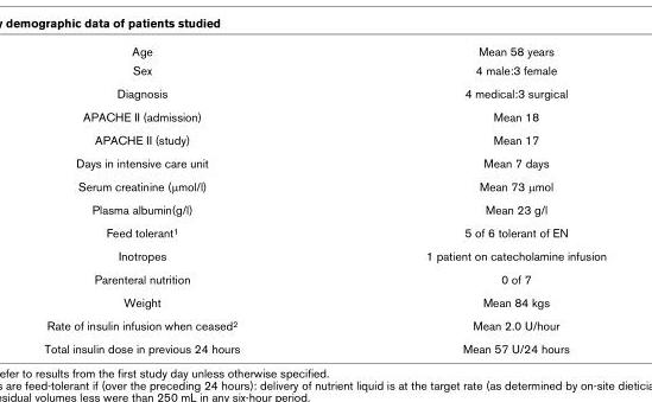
<table><tbody><tr><td>Age</td><td>Mean 58 years</td></tr><tr><td>Sex</td><td>4 male:3 female</td></tr><tr><td>Diagnosis</td><td>4 medical:3 surgical</td></tr><tr><td>APACHE II (admission)</td><td>Mean 18</td></tr><tr><td>APACHE II (study)</td><td>Mean 17</td></tr><tr><td>Days in intensive care unit</td><td>Mean 7 days</td></tr><tr><td>Serum creatinine (μmol/l)</td><td>Mean 73 μmol</td></tr><tr><td>Plasma albumin(g/l)</td><td>Mean 23 g/l</td></tr><tr><td>Feed tolerant<sup>1</sup></td><td>5 of 6 tolerant of EN</td></tr><tr><td>Inotropes</td><td>1 patient on catecholamine infusion</td></tr><tr><td>Parenteral nutrition</td><td>0 of 7</td></tr><tr><td>Weight</td><td>Mean 84 kgs</td></tr><tr><td>Rate of insulin infusion when ceased<sup>2</sup></td><td>Mean 2.0 U/hour</td></tr><tr><td>Total insulin dose in previous 24 hours</td><td>Mean 57 U/24 hours</td></tr></tbody></table>